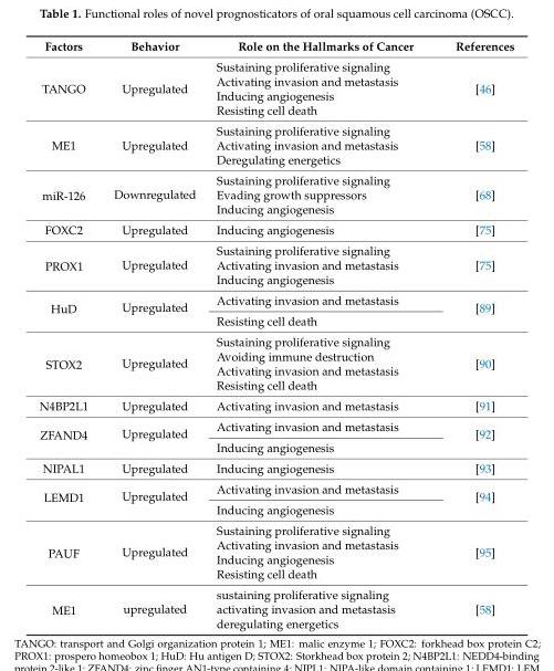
<table><thead><tr><td>Factors</td><td>Behavior</td><td>Role on the Hallmarks of Cancer</td><td>References</td></tr></thead><tbody><tr><td>TANGO</td><td>Upregulated</td><td>Sustaining proliferative signaling Activating invasion and metastasis Inducing angiogenesis Resisting cell death</td><td>[46]</td></tr><tr><td>ME1</td><td>Upregulated</td><td>Sustaining proliferative signaling Activating invasion and metastasis Deregulating energetics</td><td>[58]</td></tr><tr><td rowspan="3">miR-126</td><td rowspan="3">Downregulated</td><td>Sustaining proliferative signaling</td><td rowspan="3">[68]</td></tr><tr><td>Evading growth suppressors</td></tr><tr><td>Inducing angiogenesis</td></tr><tr><td>FOXC2</td><td>Upregulated</td><td>Inducing angiogenesis</td><td>[75]</td></tr><tr><td rowspan="3">PROX1</td><td rowspan="3">Upregulated</td><td>Sustaining proliferative signaling</td><td rowspan="3">[75]</td></tr><tr><td>Activating invasion and metastasis</td></tr><tr><td>Inducing angiogenesis</td></tr><tr><td rowspan="2">HuD</td><td rowspan="2">Upregulated</td><td>Activating invasion and metastasis</td><td rowspan="2">[89]</td></tr><tr><td>Resisting cell death</td></tr><tr><td rowspan="4">STOX2</td><td rowspan="4">Upregulated</td><td>Sustaining proliferative signaling</td><td rowspan="4">[90]</td></tr><tr><td>Avoiding immune destruction</td></tr><tr><td>Activating invasion and metastasis</td></tr><tr><td>Resisting cell death</td></tr><tr><td>N4BP2L1</td><td>Upregulated</td><td>Activating invasion and metastasis</td><td>[91]</td></tr><tr><td rowspan="2">ZFAND4</td><td rowspan="2">Upregulated</td><td>Activating invasion and metastasis</td><td rowspan="2">[92]</td></tr><tr><td>Inducing angiogenesis</td></tr><tr><td>NIPAL1</td><td>Upregulated</td><td>Inducing angiogenesis</td><td>[93]</td></tr><tr><td rowspan="2">LEMD1</td><td rowspan="2">Upregulated</td><td>Activating invasion and metastasis</td><td rowspan="2">[94]</td></tr><tr><td>Inducing angiogenesis</td></tr><tr><td rowspan="4">PAUF</td><td rowspan="4">Upregulated</td><td>Sustaining proliferative signaling</td><td rowspan="4">[95]</td></tr><tr><td>Activating invasion and metastasis</td></tr><tr><td>Inducing angiogenesis</td></tr><tr><td>Resisting cell death</td></tr><tr><td rowspan="3">ME1</td><td rowspan="3">upregulated</td><td>sustaining proliferative signaling</td><td rowspan="3">[58]</td></tr><tr><td>activating invasion and metastasis</td></tr><tr><td>deregulating energetics</td></tr></tbody></table>